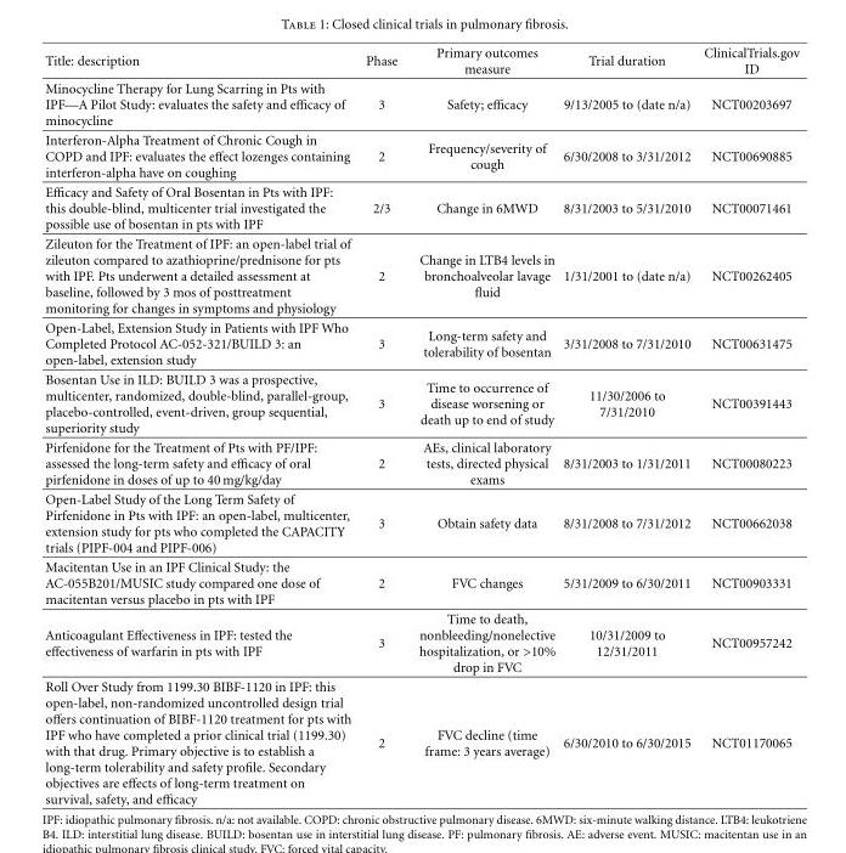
<table><thead><tr><td>Title: description</td><td>Phase</td><td>Primary outcomes measure</td><td>Trial duration</td><td>ClinicalTrials.gov ID</td></tr></thead><tbody><tr><td>Minocycline Therapy for Lung Scarring in Pts with IPF—A Pilot Study: evaluates the safety and efficacy of minocycline</td><td>3</td><td>Safety; efficacy</td><td>9/13/2005 to (date n/a)</td><td>NCT00203697</td></tr><tr><td>Interferon-Alpha Treatment of Chronic Cough in COPD and IPF: evaluates the effect lozenges containing interferon-alpha have on coughing</td><td>2</td><td>Frequency/severity of cough</td><td>6/30/2008 to 3/31/2012</td><td>NCT00690885</td></tr><tr><td>Efficacy and Safety of Oral Bosentan in Pts with IPF: this double-blind, multicenter trial investigated the possible use of bosentan in pts with IPF</td><td>2/3</td><td>Change in 6MWD</td><td>8/31/2003 to 5/31/2010</td><td>NCT00071461</td></tr><tr><td>Zileuton for the Treatment of IPF: an open-label trial of zileuton compared to azathioprine/prednisone for pts with IPF. Pts underwent a detailed assessment at baseline, followed by 3 mos of posttreatment monitoring for changes in symptoms and physiology</td><td>2</td><td>Change in LTB4 levels in bronchoalveolar lavage fluid</td><td>1/31/2001 to (date n/a)</td><td>NCT00262405</td></tr><tr><td>Open-Label, Extension Study in Patients with IPF Who Completed Protocol AC-052-321/BUILD 3: an open-label, extension study</td><td>3</td><td>Long-term safety and tolerability of bosentan</td><td>3/31/2008 to 7/31/2010</td><td>NCT00631475</td></tr><tr><td>Bosentan Use in ILD: BUILD 3 was a prospective, multicenter, randomized, double-blind, parallel-group, placebo-controlled, event-driven, group sequential, superiority study</td><td>3</td><td>Time to occurrence of disease worsening or death up to end of study</td><td>11/30/2006 to 7/31/2010</td><td>NCT00391443</td></tr><tr><td>Pirfenidone for the Treatment of Pts with PF/IPF: assessed the long-term safety and efficacy of oral pirfenidone in doses of up to 40 mg/kg/day</td><td>2</td><td>AEs, clinical laboratory tests, directed physical exams</td><td>8/31/2003 to 1/31/2011</td><td>NCT00080223</td></tr><tr><td>Open-Label Study of the Long Term Safety of Pirfenidone in Pts with IPF: an open-label, multicenter, extension study for pts who completed the CAPACITY trials (PIPF-004 and PIPF-006)</td><td>3</td><td>Obtain safety data</td><td>8/31/2008 to 7/31/2012</td><td>NCT00662038</td></tr><tr><td>Macitentan Use in an IPF Clinical Study: the AC-055B201/MUSIC study compared one dose of macitentan versus placebo in pts with IPF</td><td>2</td><td>FVC changes</td><td>5/31/2009 to 6/30/2011</td><td>NCT00903331</td></tr><tr><td>Anticoagulant Effectiveness in IPF: tested the effectiveness of warfarin in pts with IPF</td><td>3</td><td>Time to death, nonbleeding/nonelective hospitalization, or &gt;10% drop in FVC</td><td>10/31/2009 to 12/31/2011</td><td>NCT00957242</td></tr><tr><td>Roll Over Study from 1199.30 BIBF-1120 in IPF: this open-label, non-randomized uncontrolled design trial offers continuation of BIBF-1120 treatment for pts with IPF who have completed a prior clinical trial (1199.30) with that drug. Primary objective is to establish a long-term tolerability and safety profile. Secondary objectives are effects of long-term treatment on survival, safety, and efficacy</td><td>2</td><td>FVC decline (time frame: 3 years average)</td><td>6/30/2010 to 6/30/2015</td><td>NCT01170065</td></tr></tbody></table>